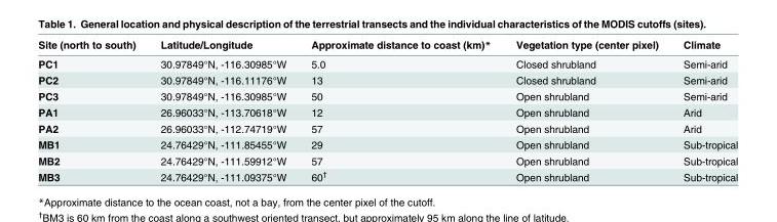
<table><thead><tr><td>Site (north to south)</td><td>Latitude/Longitude</td><td>Approximate distance to coast (km)*</td><td>Vegetation type (center pixel)</td><td>Climate</td></tr></thead><tbody><tr><td>PC1</td><td>30.97849°N, -116.30985°W</td><td>5.0</td><td>Closed shrubland</td><td>Semi-arid</td></tr><tr><td>PC2</td><td>30.97849°N, -116.11176°W</td><td>13</td><td>Closed shrubland</td><td>Semi-arid</td></tr><tr><td>PC3</td><td>30.97849°N, -116.30985°W</td><td>50</td><td>Open shrubland</td><td>Semi-arid</td></tr><tr><td>PA1</td><td>26.96033°N, -113.70618°W</td><td>12</td><td>Open shrubland</td><td>Arid</td></tr><tr><td>PA2</td><td>26.96033°N, -112.74719°W</td><td>57</td><td>Open shrubland</td><td>Arid</td></tr><tr><td>MB1</td><td>24.76429°N, -111.85455°W</td><td>29</td><td>Open shrubland</td><td>Sub-tropical</td></tr><tr><td>MB2</td><td>24.76429°N, -111.59912°W</td><td>57</td><td>Open shrubland</td><td>Sub-tropical</td></tr><tr><td>MB3</td><td>24.76429°N, -111.09375°W</td><td>60<sup>†</sup></td><td>Open shrubland</td><td>Sub-tropical</td></tr></tbody></table>